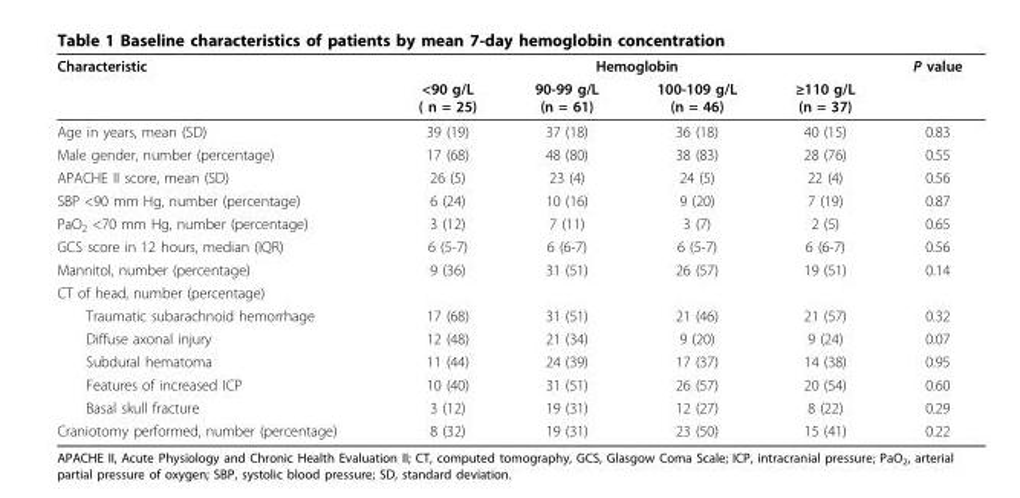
<table><thead><tr><td rowspan="2">Characteristic</td><td colspan="4">Hemoglobin</td><td rowspan="2">P value</td></tr><tr><td>&lt;90 g/L ( n = 25)</td><td>90-99 g/L (n = 61)</td><td>100-109 g/L (n = 46)</td><td>≥110 g/L (n = 37)</td></tr></thead><tbody><tr><td>Age in years, mean (SD)</td><td>39 (19)</td><td>37 (18)</td><td>36 (18)</td><td>40 (15)</td><td>0.83</td></tr><tr><td>Male gender, number (percentage)</td><td>17 (68)</td><td>48 (80)</td><td>38 (83)</td><td>28 (76)</td><td>0.55</td></tr><tr><td>APACHE II score, mean (SD)</td><td>26 (5)</td><td>23 (4)</td><td>24 (5)</td><td>22 (4)</td><td>0.56</td></tr><tr><td>SBP &lt;90 mm Hg, number (percentage)</td><td>6 (24)</td><td>10 (16)</td><td>9 (20)</td><td>7 (19)</td><td>0.87</td></tr><tr><td>PaO<sub>2</sub> &lt;70 mm Hg, number (percentage)</td><td>3 (12)</td><td>7 (11)</td><td>3 (7)</td><td>2 (5)</td><td>0.65</td></tr><tr><td>GCS score in 12 hours, median (IQR)</td><td>6 (5-7)</td><td>6 (6-7)</td><td>6 (5-7)</td><td>6 (6-7)</td><td>0.56</td></tr><tr><td>Mannitol, number (percentage)</td><td>9 (36)</td><td>31 (51)</td><td>26 (57)</td><td>19 (51)</td><td>0.14</td></tr><tr><td colspan="6">CT of head, number (percentage)</td></tr><tr><td>Traumatic subarachnoid hemorrhage</td><td>17 (68)</td><td>31 (51)</td><td>21 (46)</td><td>21 (57)</td><td>0.32</td></tr><tr><td>Diffuse axonal injury</td><td>12 (48)</td><td>21 (34)</td><td>9 (20)</td><td>9 (24)</td><td>0.07</td></tr><tr><td>Subdural hematoma</td><td>11 (44)</td><td>24 (39)</td><td>17 (37)</td><td>14 (38)</td><td>0.95</td></tr><tr><td>Features of increased ICP</td><td>10 (40)</td><td>31 (51)</td><td>26 (57)</td><td>20 (54)</td><td>0.60</td></tr><tr><td>Basal skull fracture</td><td>3 (12)</td><td>19 (31)</td><td>12 (27)</td><td>8 (22)</td><td>0.29</td></tr><tr><td>Craniotomy performed, number (percentage)</td><td>8 (32)</td><td>19 (31)</td><td>23 (50)</td><td>15 (41)</td><td>0.22</td></tr></tbody></table>